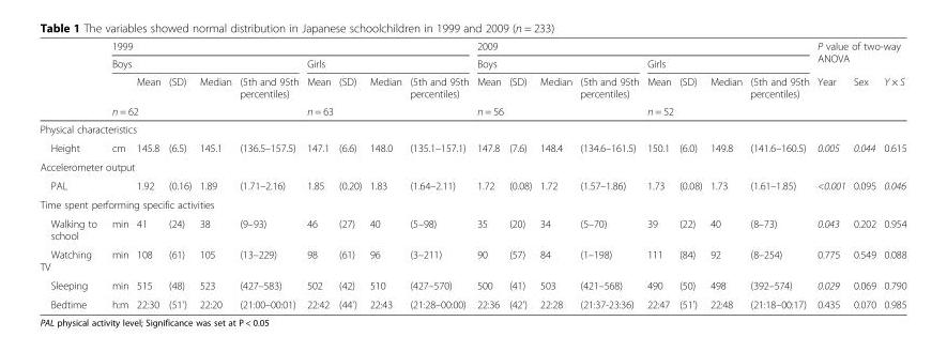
<table><thead><tr><td rowspan="4"></td><td colspan="9">1999</td><td colspan="8">2009</td><td rowspan="2" colspan="3">P value of two-way ANOVA</td></tr><tr><td colspan="5">Boys</td><td colspan="4">Girls</td><td colspan="4">Boys</td><td colspan="4">Girls</td></tr><tr><td></td><td>Mean</td><td>(SD)</td><td>Median</td><td>(5th and 95th percentiles)</td><td>Mean</td><td>(SD)</td><td>Median</td><td>(5th and 95th percentiles)</td><td>Mean</td><td>(SD)</td><td>Median</td><td>(5th and 95th percentiles)</td><td>Mean</td><td>(SD)</td><td>Median</td><td>(5th and 95th percentiles)</td><td rowspan="2">Year</td><td rowspan="2">Sex</td><td rowspan="2">Y × S</td></tr><tr><td colspan="5">n = 62</td><td colspan="4">n = 63</td><td colspan="4">n = 56</td><td colspan="4">n = 52</td></tr></thead><tbody><tr><td colspan="21">Physical characteristics</td></tr><tr><td>Height</td><td>cm</td><td>145.8</td><td>(6.5)</td><td>145.1</td><td>(136.5–157.5)</td><td>147.1</td><td>(6.6)</td><td>148.0</td><td>(135.1–157.1)</td><td>147.8</td><td>(7.6)</td><td>148.4</td><td>(134.6–161.5)</td><td>150.1</td><td>(6.0)</td><td>149.8</td><td>(141.6–160.5)</td><td>0.005</td><td>0.044</td><td>0.615</td></tr><tr><td colspan="21">Accelerometer output</td></tr><tr><td colspan="2">PAL</td><td>1.92</td><td>(0.16)</td><td>1.89</td><td>(1.71–2.16)</td><td>1.85</td><td>(0.20)</td><td>1.83</td><td>(1.64–2.11)</td><td>1.72</td><td>(0.08)</td><td>1.72</td><td>(1.57–1.86)</td><td>1.73</td><td>(0.08)</td><td>1.73</td><td>(1.61–1.85)</td><td>&lt;0.001</td><td>0.095</td><td>0.046</td></tr><tr><td colspan="21">Time spent performing specific activities</td></tr><tr><td>Walking to school</td><td>min</td><td>41</td><td>(24)</td><td>38</td><td>(9–93)</td><td>46</td><td>(27)</td><td>40</td><td>(5–98)</td><td>35</td><td>(20)</td><td>34</td><td>(5–70)</td><td>39</td><td>(22)</td><td>40</td><td>(8–73)</td><td>0.043</td><td>0.202</td><td>0.954</td></tr><tr><td>Watching TV</td><td>min</td><td>108</td><td>(61)</td><td>105</td><td>(13–229)</td><td>98</td><td>(61)</td><td>96</td><td>(3–211)</td><td>90</td><td>(57)</td><td>84</td><td>(1–198)</td><td>111</td><td>(84)</td><td>92</td><td>(8–254)</td><td>0.775</td><td>0.549</td><td>0.088</td></tr><tr><td>Sleeping</td><td>min</td><td>515</td><td>(48)</td><td>523</td><td>(427–583)</td><td>502</td><td>(42)</td><td>510</td><td>(427–570)</td><td>500</td><td>(41)</td><td>503</td><td>(421–568)</td><td>490</td><td>(50)</td><td>498</td><td>(392–574)</td><td>0.029</td><td>0.069</td><td>0.790</td></tr><tr><td>Bedtime</td><td>h:m</td><td>22:30</td><td>(51&#x27;)</td><td>22:20</td><td>(21:00–00:01)</td><td>22:42</td><td>(44&#x27;)</td><td>22:43</td><td>(21:28–00:00)</td><td>22:36</td><td>(42&#x27;)</td><td>22:28</td><td>(21:37-23:36)</td><td>22:47</td><td>(51&#x27;)</td><td>22:48</td><td>(21:18–00:17)</td><td>0.435</td><td>0.070</td><td>0.985</td></tr></tbody></table>